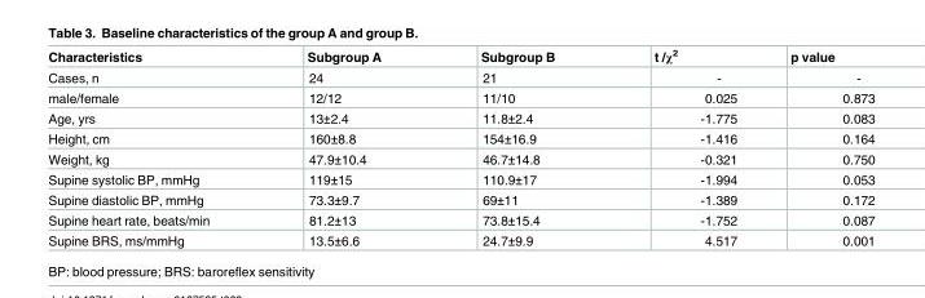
<table><thead><tr><td>Characteristics</td><td>Subgroup A</td><td>Subgroup B</td><td>t /χ<sup>2</sup></td><td>p value</td></tr></thead><tbody><tr><td>Cases, n</td><td>24</td><td>21</td><td>-</td><td>-</td></tr><tr><td>male/female</td><td>12/12</td><td>11/10</td><td>0.025</td><td>0.873</td></tr><tr><td>Age, yrs</td><td>13±2.4</td><td>11.8±2.4</td><td>-1.775</td><td>0.083</td></tr><tr><td>Height, cm</td><td>160±8.8</td><td>154±16.9</td><td>-1.416</td><td>0.164</td></tr><tr><td>Weight, kg</td><td>47.9±10.4</td><td>46.7±14.8</td><td>-0.321</td><td>0.750</td></tr><tr><td>Supine systolic BP, mmHg</td><td>119±15</td><td>110.9±17</td><td>-1.994</td><td>0.053</td></tr><tr><td>Supine diastolic BP, mmHg</td><td>73.3±9.7</td><td>69±11</td><td>-1.389</td><td>0.172</td></tr><tr><td>Supine heart rate, beats/min</td><td>81.2±13</td><td>73.8±15.4</td><td>-1.752</td><td>0.087</td></tr><tr><td>Supine BRS, ms/mmHg</td><td>13.5±6.6</td><td>24.7±9.9</td><td>4.517</td><td>0.001</td></tr></tbody></table>